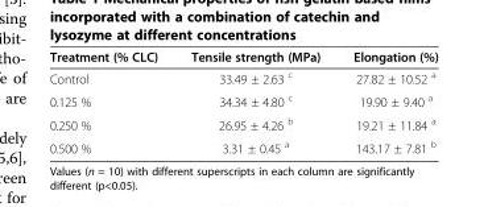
<table><thead><tr><td>Treatment (% CLC)</td><td>Tensile strength (MPa)</td><td>Elongation (%)</td></tr></thead><tbody><tr><td>Control</td><td>33.49 ± 2.63 <sup>c</sup></td><td>27.82 ± 10.52 <sup>a</sup></td></tr><tr><td>0.125 %</td><td>34.34 ± 4.80 <sup>c</sup></td><td>19.90 ± 9.40 <sup>a</sup></td></tr><tr><td>0.250 %</td><td>26.95 ± 4.26 <sup>b</sup></td><td>19.21 ± 11.84 <sup>a</sup></td></tr><tr><td>0.500 %</td><td>3.31 ± 0.45 <sup>a</sup></td><td>143.17 ± 7.81 <sup>b</sup></td></tr></tbody></table>